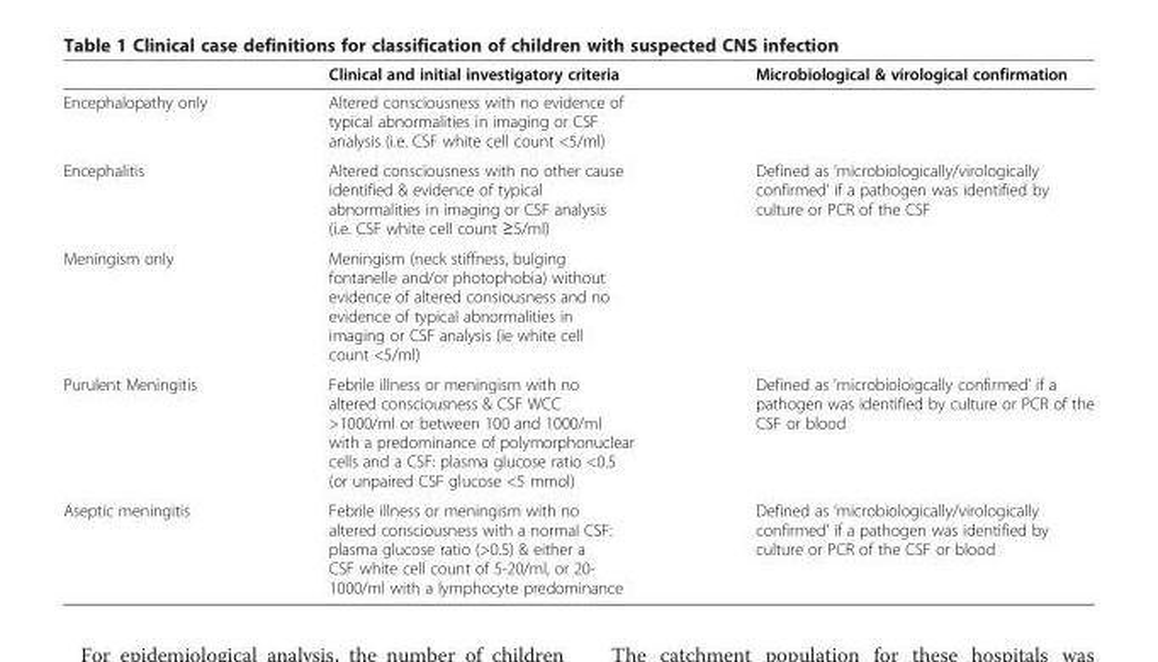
<table><thead><tr><td></td><td>Clinical and initial investigatory criteria</td><td>Microbiological &amp; virological confirmation</td></tr></thead><tbody><tr><td>Encephalopathy only</td><td>Altered consciousness with no evidence of typical abnormalities in imaging or CSF analysis (i.e. CSF white cell count &lt;5/ml)</td><td></td></tr><tr><td>Encephalitis</td><td>Altered consciousness with no other cause identified &amp; evidence of typical abnormalities in imaging or CSF analysis (i.e. CSF white cell count ≥5/ml)</td><td>Defined as ‘microbiologically/virologically confirmed&#x27; if a pathogen was identified by culture or PCR of the CSF</td></tr><tr><td>Meningism only</td><td>Meningism (neck stiffness, bulging fontanelle and/or photophobia) without evidence of altered consiousness and no evidence of typical abnormalities in imaging or CSF analysis (ie white cell count &lt;5/ml)</td><td></td></tr><tr><td>Purulent Meningitis</td><td>Febrile illness or meningism with no altered consciousness &amp; CSF WCC &gt;1000/ml or between 100 and 1000/ml with a predominance of polymorphonuclear cells and a CSF: plasma glucose ratio &lt;0.5 (or unpaired CSF glucose &lt;5 mmol)</td><td>Defined as &#x27;microbioloigcally confirmed&#x27; if a pathogen was identified by culture or PCR of the CSF or blood</td></tr><tr><td>Aseptic meningitis</td><td>Febrile illness or meningism with no altered consciousness with a normal CSF: plasma glucose ratio (&gt;0.5) &amp; either a CSF white cell count of 5-20/ml, or 20- 1000/ml with a lymphocyte predominance</td><td>Defined as ‘microbiologically/virologically confirmed’ if a pathogen was identified by culture or PCR of the CSF or blood</td></tr></tbody></table>